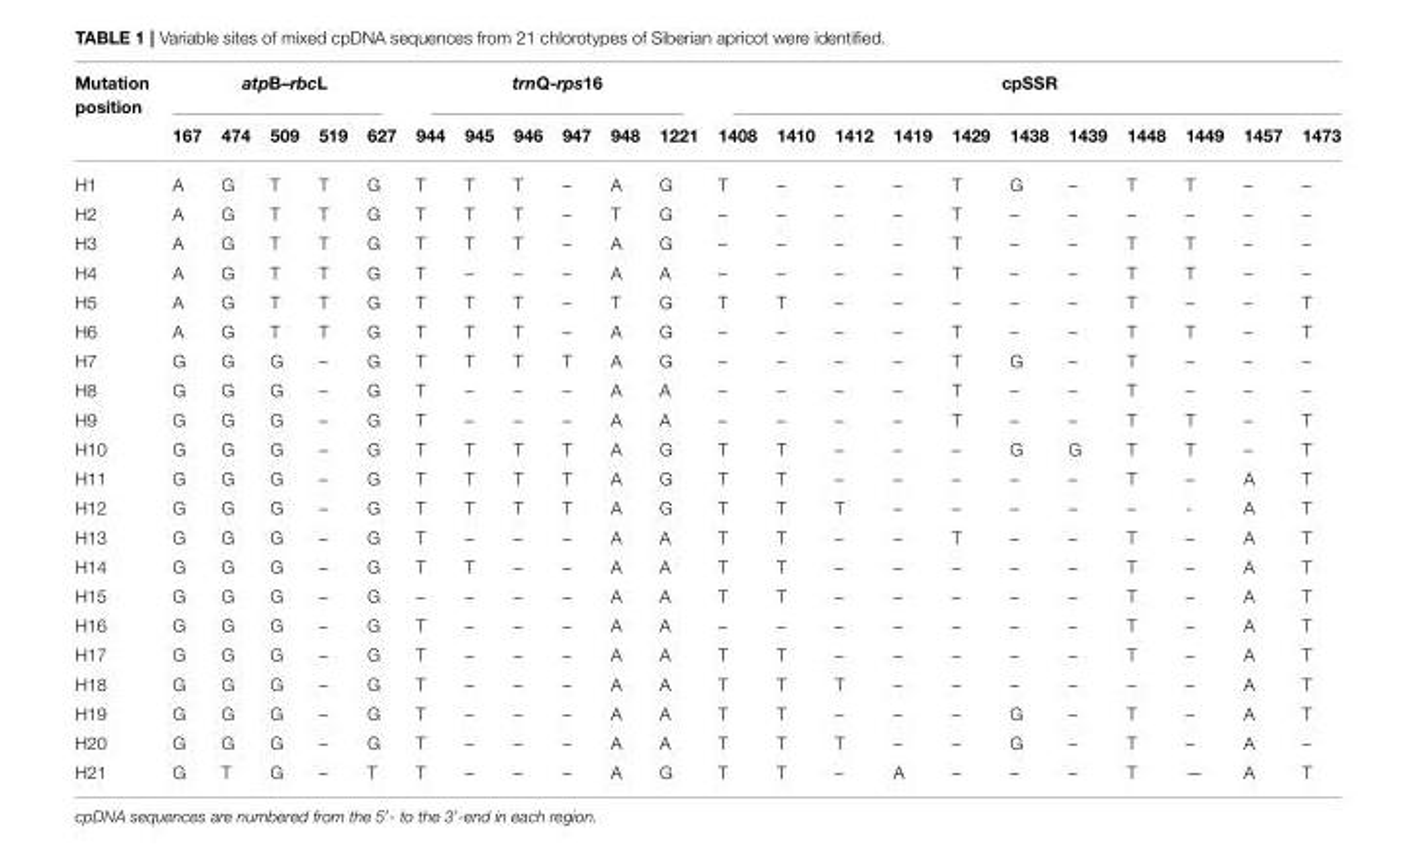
<table><thead><tr><td rowspan="2">Mutation position</td><td colspan="5">atpB–rbcL</td><td colspan="6">trnQ-rps16</td><td colspan="11">cpSSR</td></tr><tr><td>167</td><td>474</td><td>509</td><td>519</td><td>627</td><td>944</td><td>945</td><td>946</td><td>947</td><td>948</td><td>1221</td><td>1408</td><td>1410</td><td>1412</td><td>1419</td><td>1429</td><td>1438</td><td>1439</td><td>1448</td><td>1449</td><td>1457</td><td>1473</td></tr></thead><tbody><tr><td>H1</td><td>A</td><td>G</td><td>T</td><td>T</td><td>G</td><td>T</td><td>T</td><td>T</td><td>–</td><td>A</td><td>G</td><td>T</td><td>–</td><td>–</td><td>–</td><td>T</td><td>G</td><td>–</td><td>T</td><td>T</td><td>–</td><td>–</td></tr><tr><td>H2</td><td>A</td><td>G</td><td>T</td><td>T</td><td>G</td><td>T</td><td>T</td><td>T</td><td>–</td><td>T</td><td>G</td><td>–</td><td>–</td><td>–</td><td>–</td><td>T</td><td>–</td><td>–</td><td>–</td><td>–</td><td>–</td><td>–</td></tr><tr><td>H3</td><td>A</td><td>G</td><td>T</td><td>T</td><td>G</td><td>T</td><td>T</td><td>T</td><td>–</td><td>A</td><td>G</td><td>–</td><td>–</td><td>–</td><td>–</td><td>T</td><td>–</td><td>–</td><td>T</td><td>T</td><td>–</td><td>–</td></tr><tr><td>H4</td><td>A</td><td>G</td><td>T</td><td>T</td><td>G</td><td>T</td><td>–</td><td>–</td><td>–</td><td>A</td><td>A</td><td>–</td><td>–</td><td>–</td><td>–</td><td>T</td><td>–</td><td>–</td><td>T</td><td>T</td><td>–</td><td>–</td></tr><tr><td>H5</td><td>A</td><td>G</td><td>T</td><td>T</td><td>G</td><td>T</td><td>T</td><td>T</td><td>–</td><td>T</td><td>G</td><td>T</td><td>T</td><td>–</td><td>–</td><td>–</td><td>–</td><td>–</td><td>T</td><td>–</td><td>–</td><td>T</td></tr><tr><td>H6</td><td>A</td><td>G</td><td>T</td><td>T</td><td>G</td><td>T</td><td>T</td><td>T</td><td>–</td><td>A</td><td>G</td><td>–</td><td>–</td><td>–</td><td>–</td><td>T</td><td>–</td><td>–</td><td>T</td><td>T</td><td>–</td><td>T</td></tr><tr><td>H7</td><td>G</td><td>G</td><td>G</td><td>–</td><td>G</td><td>T</td><td>T</td><td>T</td><td>T</td><td>A</td><td>G</td><td>–</td><td>–</td><td>–</td><td>–</td><td>T</td><td>G</td><td>–</td><td>T</td><td>–</td><td>–</td><td>–</td></tr><tr><td>H8</td><td>G</td><td>G</td><td>G</td><td>–</td><td>G</td><td>T</td><td>–</td><td>–</td><td>–</td><td>A</td><td>A</td><td>–</td><td>–</td><td>–</td><td>–</td><td>T</td><td>–</td><td>–</td><td>T</td><td>–</td><td>–</td><td>–</td></tr><tr><td>H9</td><td>G</td><td>G</td><td>G</td><td>–</td><td>G</td><td>T</td><td>–</td><td>–</td><td>–</td><td>A</td><td>A</td><td>–</td><td>–</td><td>–</td><td>–</td><td>T</td><td>–</td><td>–</td><td>T</td><td>T</td><td>–</td><td>T</td></tr><tr><td>H10</td><td>G</td><td>G</td><td>G</td><td>–</td><td>G</td><td>T</td><td>T</td><td>T</td><td>T</td><td>A</td><td>G</td><td>T</td><td>T</td><td>–</td><td>–</td><td>–</td><td>G</td><td>G</td><td>T</td><td>T</td><td>–</td><td>T</td></tr><tr><td>H11</td><td>G</td><td>G</td><td>G</td><td>–</td><td>G</td><td>T</td><td>T</td><td>T</td><td>T</td><td>A</td><td>G</td><td>T</td><td>T</td><td>–</td><td>–</td><td>–</td><td>–</td><td>–</td><td>T</td><td>–</td><td>A</td><td>T</td></tr><tr><td>H12</td><td>G</td><td>G</td><td>G</td><td>–</td><td>G</td><td>T</td><td>T</td><td>T</td><td>T</td><td>A</td><td>G</td><td>T</td><td>T</td><td>T</td><td>–</td><td>–</td><td>–</td><td>–</td><td>–</td><td>-</td><td>A</td><td>T</td></tr><tr><td>H13</td><td>G</td><td>G</td><td>G</td><td>–</td><td>G</td><td>T</td><td>–</td><td>–</td><td>–</td><td>A</td><td>A</td><td>T</td><td>T</td><td>–</td><td>–</td><td>T</td><td>–</td><td>–</td><td>T</td><td>–</td><td>A</td><td>T</td></tr><tr><td>H14</td><td>G</td><td>G</td><td>G</td><td>–</td><td>G</td><td>T</td><td>T</td><td>–</td><td>–</td><td>A</td><td>A</td><td>T</td><td>T</td><td>–</td><td>–</td><td>–</td><td>–</td><td>–</td><td>T</td><td>–</td><td>A</td><td>T</td></tr><tr><td>H15</td><td>G</td><td>G</td><td>G</td><td>–</td><td>G</td><td>–</td><td>–</td><td>–</td><td>–</td><td>A</td><td>A</td><td>T</td><td>T</td><td>–</td><td>–</td><td>–</td><td>–</td><td>–</td><td>T</td><td>–</td><td>A</td><td>T</td></tr><tr><td>H16</td><td>G</td><td>G</td><td>G</td><td>–</td><td>G</td><td>T</td><td>–</td><td>–</td><td>–</td><td>A</td><td>A</td><td>–</td><td>–</td><td>–</td><td>–</td><td>–</td><td>–</td><td>–</td><td>T</td><td>–</td><td>A</td><td>T</td></tr><tr><td>H17</td><td>G</td><td>G</td><td>G</td><td>–</td><td>G</td><td>T</td><td>–</td><td>–</td><td>–</td><td>A</td><td>A</td><td>T</td><td>T</td><td>–</td><td>–</td><td>–</td><td>–</td><td>–</td><td>T</td><td>–</td><td>A</td><td>T</td></tr><tr><td>H18</td><td>G</td><td>G</td><td>G</td><td>–</td><td>G</td><td>T</td><td>–</td><td>–</td><td>–</td><td>A</td><td>A</td><td>T</td><td>T</td><td>T</td><td>–</td><td>–</td><td>–</td><td>–</td><td>–</td><td>–</td><td>A</td><td>T</td></tr><tr><td>H19</td><td>G</td><td>G</td><td>G</td><td>–</td><td>G</td><td>T</td><td>–</td><td>–</td><td>–</td><td>A</td><td>A</td><td>T</td><td>T</td><td>–</td><td>–</td><td>–</td><td>G</td><td>–</td><td>T</td><td>–</td><td>A</td><td>T</td></tr><tr><td>H20</td><td>G</td><td>G</td><td>G</td><td>–</td><td>G</td><td>T</td><td>–</td><td>–</td><td>–</td><td>A</td><td>A</td><td>T</td><td>T</td><td>T</td><td>–</td><td>–</td><td>G</td><td>–</td><td>T</td><td>–</td><td>A</td><td>–</td></tr><tr><td>H21</td><td>G</td><td>T</td><td>G</td><td>–</td><td>T</td><td>T</td><td>–</td><td>–</td><td>–</td><td>A</td><td>G</td><td>T</td><td>T</td><td>–</td><td>A</td><td>–</td><td>–</td><td>–</td><td>T</td><td>—</td><td>A</td><td>T</td></tr></tbody></table>